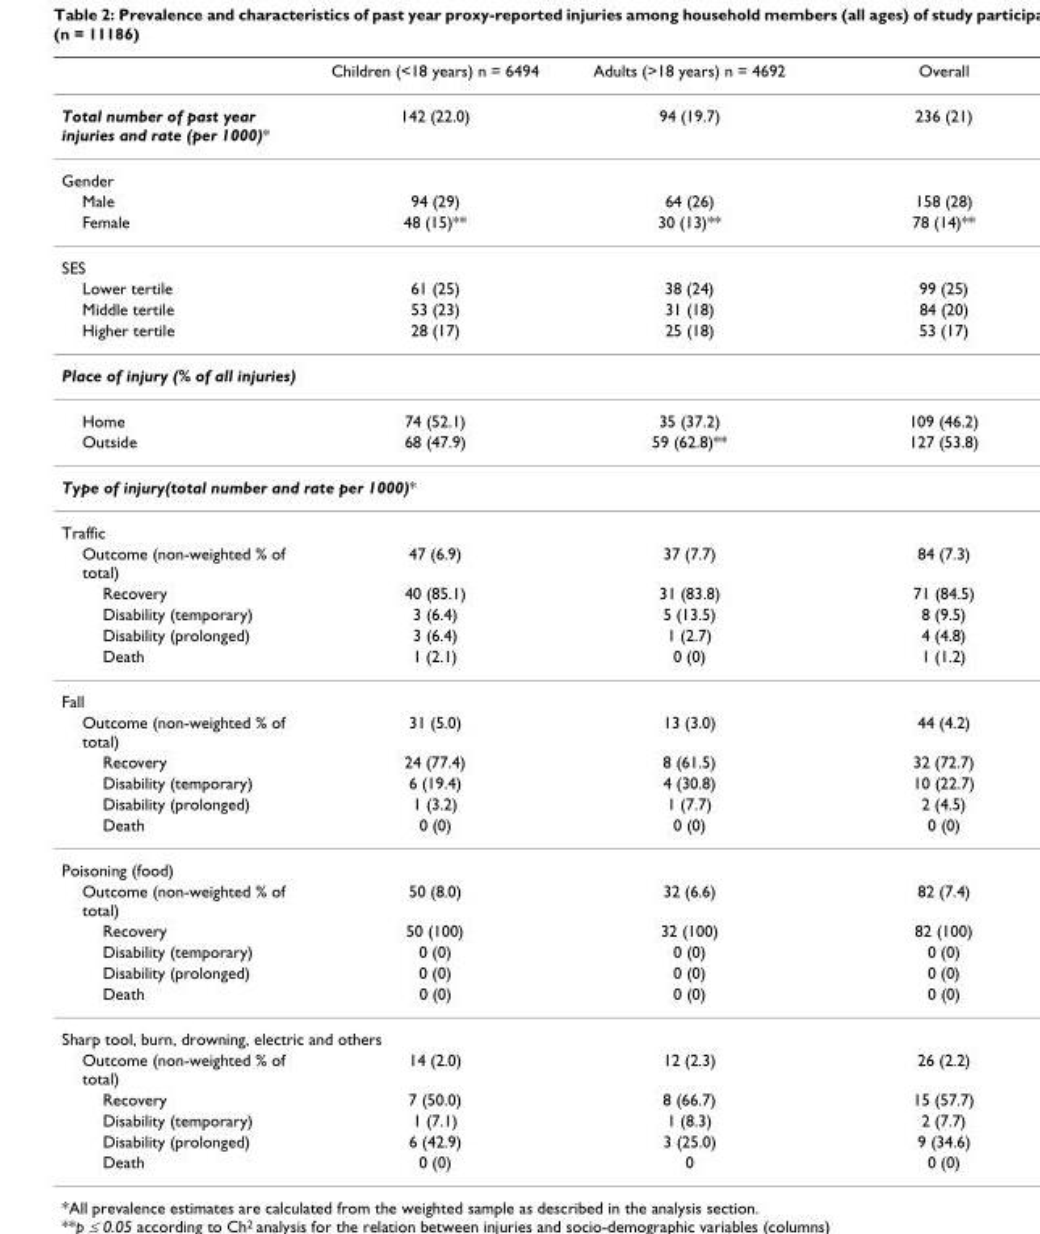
<table><thead><tr><td></td><td>Children (&lt;18 years) n = 6494</td><td>Adults (&gt;18 years) n = 4692</td><td>Overall</td></tr></thead><tbody><tr><td>Total number of past year injuries and rate (per 1000)*</td><td>142 (22.0)</td><td>94 (19.7)</td><td>236 (21)</td></tr><tr><td colspan="4">Gender</td></tr><tr><td>Male</td><td>94 (29)</td><td>64 (26)</td><td>158 (28)</td></tr><tr><td>Female</td><td>48 (15)**</td><td>30 (13)**</td><td>78 (14)**</td></tr><tr><td colspan="4">SES</td></tr><tr><td>Lower tertile</td><td>61 (25)</td><td>38 (24)</td><td>99 (25)</td></tr><tr><td>Middle tertile</td><td>53 (23)</td><td>31 (18)</td><td>84 (20)</td></tr><tr><td>Higher tertile</td><td>28 (17)</td><td>25 (18)</td><td>53 (17)</td></tr><tr><td colspan="4">Place of injury (% of all injuries)</td></tr><tr><td>Home</td><td>74 (52.1)</td><td>35 (37.2)</td><td>109 (46.2)</td></tr><tr><td>Outside</td><td>68 (47.9)</td><td>59 (62.8)**</td><td>127 (53.8)</td></tr><tr><td colspan="4">Type of injury(total number and rate per 1000)*</td></tr><tr><td colspan="4">Traffic</td></tr><tr><td>Outcome (non-weighted % of total)</td><td>47 (6.9)</td><td>37 (7.7)</td><td>84 (7.3)</td></tr><tr><td>Recovery</td><td>40 (85.1)</td><td>31 (83.8)</td><td>71 (84.5)</td></tr><tr><td>Disability (temporary)</td><td>3 (6.4)</td><td>5 (13.5)</td><td>8 (9.5)</td></tr><tr><td>Disability (prolonged)</td><td>3 (6.4)</td><td>1 (2.7)</td><td>4 (4.8)</td></tr><tr><td>Death</td><td>1 (2.1)</td><td>0 (0)</td><td>1 (1.2)</td></tr><tr><td colspan="4">Fall</td></tr><tr><td>Outcome (non-weighted % of total)</td><td>31 (5.0)</td><td>13 (3.0)</td><td>44 (4.2)</td></tr><tr><td>Recovery</td><td>24 (77.4)</td><td>8 (61.5)</td><td>32 (72.7)</td></tr><tr><td>Disability (temporary)</td><td>6 (19.4)</td><td>4 (30.8)</td><td>10 (22.7)</td></tr><tr><td>Disability (prolonged)</td><td>1 (3.2)</td><td>1 (7.7)</td><td>2 (4.5)</td></tr><tr><td>Death</td><td>0 (0)</td><td>0 (0)</td><td>0 (0)</td></tr><tr><td colspan="4">Poisoning (food)</td></tr><tr><td>Outcome (non-weighted % of total)</td><td>50 (8.0)</td><td>32 (6.6)</td><td>82 (7.4)</td></tr><tr><td>Recovery</td><td>50 (100)</td><td>32 (100)</td><td>82 (100)</td></tr><tr><td>Disability (temporary)</td><td>0 (0)</td><td>0 (0)</td><td>0 (0)</td></tr><tr><td>Disability (prolonged)</td><td>0 (0)</td><td>0 (0)</td><td>0 (0)</td></tr><tr><td>Death</td><td>0 (0)</td><td>0 (0)</td><td>0 (0)</td></tr><tr><td colspan="4">Sharp tool, burn, drowning, electric and others</td></tr><tr><td>Outcome (non-weighted % of total)</td><td>14 (2.0)</td><td>12 (2.3)</td><td>26 (2.2)</td></tr><tr><td>Recovery</td><td>7 (50.0)</td><td>8 (66.7)</td><td>15 (57.7)</td></tr><tr><td>Disability (temporary)</td><td>1 (7.1)</td><td>1 (8.3)</td><td>2 (7.7)</td></tr><tr><td>Disability (prolonged)</td><td>6 (42.9)</td><td>3 (25.0)</td><td>9 (34.6)</td></tr><tr><td>Death</td><td>0 (0)</td><td>0</td><td>0 (0)</td></tr></tbody></table>